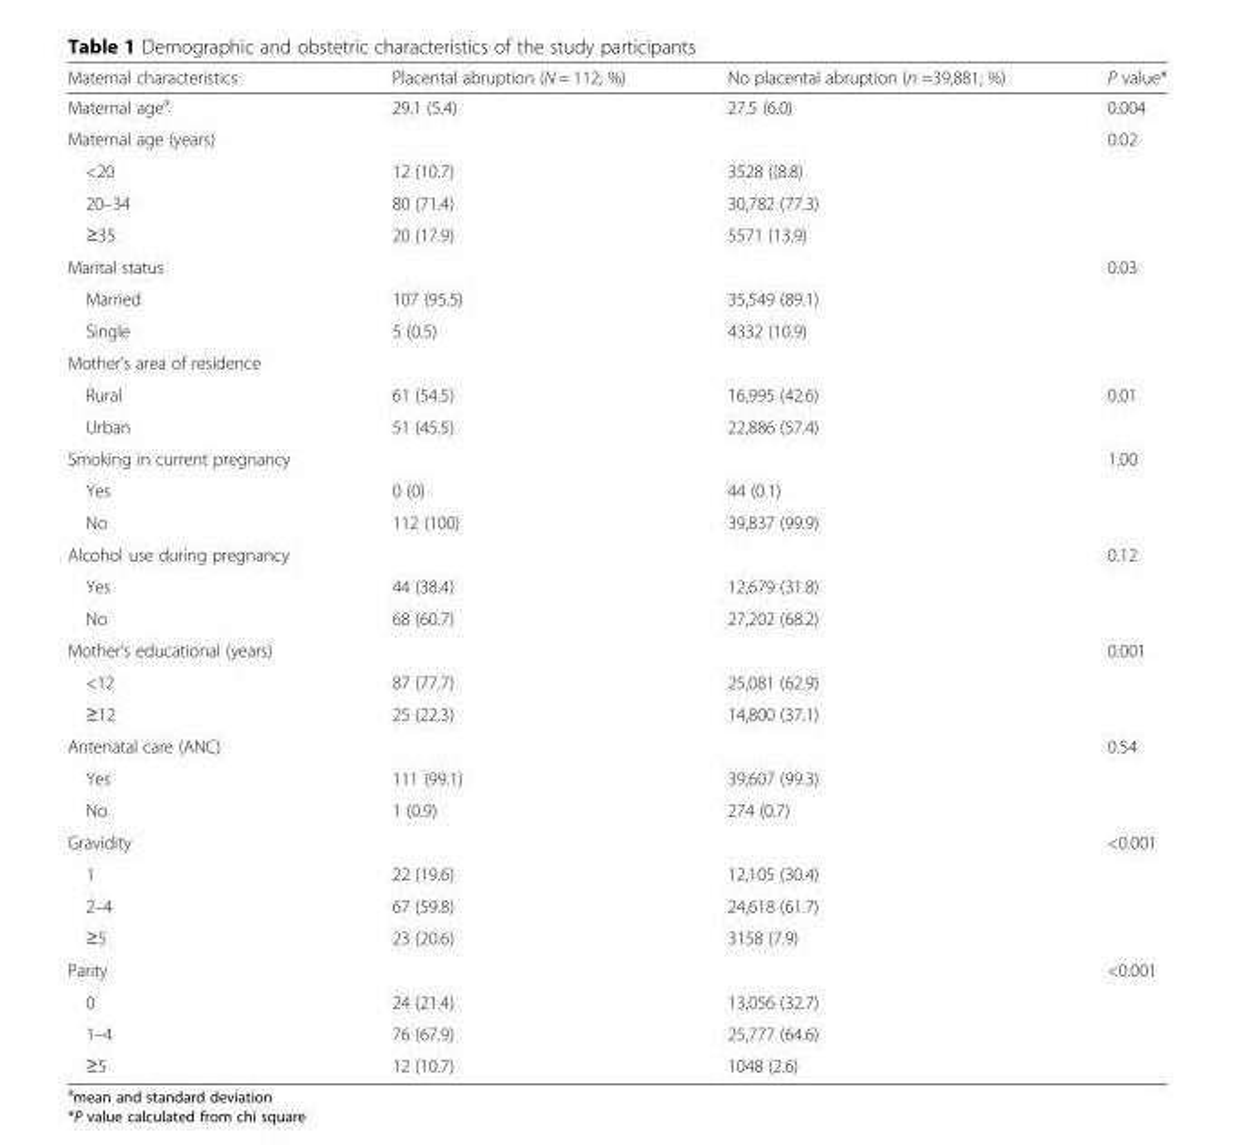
<table><thead><tr><td>Maternal characteristics</td><td>Placental abruption (N = 112; %)</td><td>No placental abruption (n =39,881; %)</td><td>P value*</td></tr></thead><tbody><tr><td>Maternal age<sup>a</sup></td><td>29.1 (5.4)</td><td>27.5 (6.0)</td><td>0.004</td></tr><tr><td>Maternal age (years)</td><td></td><td></td><td>0.02</td></tr><tr><td>&lt;20</td><td>12 (10.7)</td><td>3528 ((8.8)</td><td></td></tr><tr><td>20–34</td><td>80 (71.4)</td><td>30,782 (77.3)</td><td></td></tr><tr><td>≥35</td><td>20 (17.9)</td><td>5571 (13.9)</td><td></td></tr><tr><td>Marital status</td><td></td><td></td><td>0.03</td></tr><tr><td>Married</td><td>107 (95.5)</td><td>35,549 (89.1)</td><td></td></tr><tr><td>Single</td><td>5 (0.5)</td><td>4332 (10.9)</td><td></td></tr><tr><td colspan="4">Mother’s area of residence</td></tr><tr><td>Rural</td><td>61 (54.5)</td><td>16,995 (42.6)</td><td>0.01</td></tr><tr><td>Urban</td><td>51 (45.5)</td><td>22,886 (57.4)</td><td></td></tr><tr><td>Smoking in current pregnancy</td><td></td><td></td><td>1.00</td></tr><tr><td>Yes</td><td>0 (0)</td><td>44 (0.1)</td><td></td></tr><tr><td>No</td><td>112 (100)</td><td>39,837 (99.9)</td><td></td></tr><tr><td>Alcohol use during pregnancy</td><td></td><td></td><td>0.12</td></tr><tr><td>Yes</td><td>44 (38.4)</td><td>12,679 (31.8)</td><td></td></tr><tr><td>No</td><td>68 (60.7)</td><td>27,202 (68.2)</td><td></td></tr><tr><td>Mother’s educational (years)</td><td></td><td></td><td>0.001</td></tr><tr><td>&lt;12</td><td>87 (77.7)</td><td>25,081 (62.9)</td><td></td></tr><tr><td>≥12</td><td>25 (22.3)</td><td>14,800 (37.1)</td><td></td></tr><tr><td>Antenatal care (ANC)</td><td></td><td></td><td>0.54</td></tr><tr><td>Yes</td><td>111 (99.1)</td><td>39,607 (99.3)</td><td></td></tr><tr><td>No</td><td>1 (0.9)</td><td>274 (0.7)</td><td></td></tr><tr><td>Gravidity</td><td></td><td></td><td>&lt;0.001</td></tr><tr><td>1</td><td>22 (19.6)</td><td>12,105 (30.4)</td><td></td></tr><tr><td>2–4</td><td>67 (59.8)</td><td>24,618 (61.7)</td><td></td></tr><tr><td>≥5</td><td>23 (20.6)</td><td>3158 (7.9)</td><td></td></tr><tr><td>Parity</td><td></td><td></td><td>&lt;0.001</td></tr><tr><td>0</td><td>24 (21.4)</td><td>13,056 (32.7)</td><td></td></tr><tr><td>1–4</td><td>76 (67.9)</td><td>25,777 (64.6)</td><td></td></tr><tr><td>≥5</td><td>12 (10.7)</td><td>1048 (2.6)</td><td></td></tr></tbody></table>